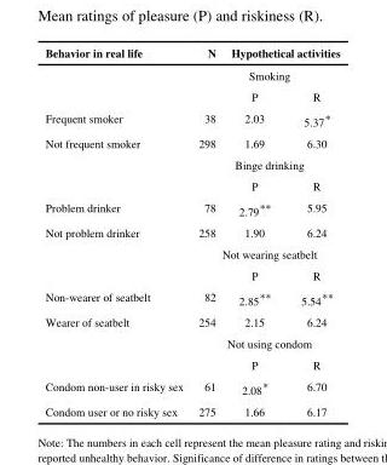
<table><thead><tr><td rowspan="3">Behavior in real life</td><td>N</td><td colspan="2">Hypothetical activities</td></tr><tr><td colspan="3">Smoking</td></tr><tr><td></td><td>P</td><td>R</td></tr></thead><tbody><tr><td>Frequent smoker</td><td>38</td><td>2.03</td><td>5.37*</td></tr><tr><td rowspan="3">Not frequent smoker</td><td>298</td><td>1.69</td><td>6.30</td></tr><tr><td colspan="3">Binge drinking</td></tr><tr><td></td><td>P</td><td>R</td></tr><tr><td>Problem drinker</td><td>78</td><td>2.79**</td><td>5.95</td></tr><tr><td rowspan="3">Not problem drinker</td><td>258</td><td>1.90</td><td>6.24</td></tr><tr><td colspan="3">Not wearing seatbelt</td></tr><tr><td></td><td>P</td><td>R</td></tr><tr><td>Non-wearer of seatbelt</td><td>82</td><td>2.85**</td><td>5.54**</td></tr><tr><td rowspan="3">Wearer of seatbelt</td><td>254</td><td>2.15</td><td>6.24</td></tr><tr><td colspan="3">Not using condom</td></tr><tr><td></td><td>P</td><td>R</td></tr><tr><td>Condom non-user in risky sex</td><td>61</td><td>2.08*</td><td>6.70</td></tr><tr><td>Condom user or no risky sex</td><td>275</td><td>1.66</td><td>6.17</td></tr></tbody></table>